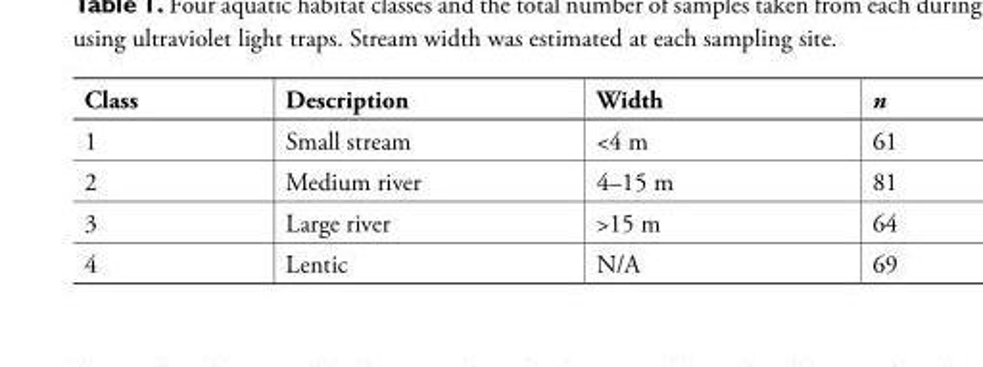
<table><thead><tr><td>Class</td><td>Description</td><td>Width</td><td>n</td></tr></thead><tbody><tr><td>1</td><td>Small stream</td><td>&lt;4 m</td><td>61</td></tr><tr><td>2</td><td>Medium river</td><td>4–15 m</td><td>81</td></tr><tr><td>3</td><td>Large river</td><td>&gt;15 m</td><td>64</td></tr><tr><td>4</td><td>Lentic</td><td>N/A</td><td>69</td></tr></tbody></table>